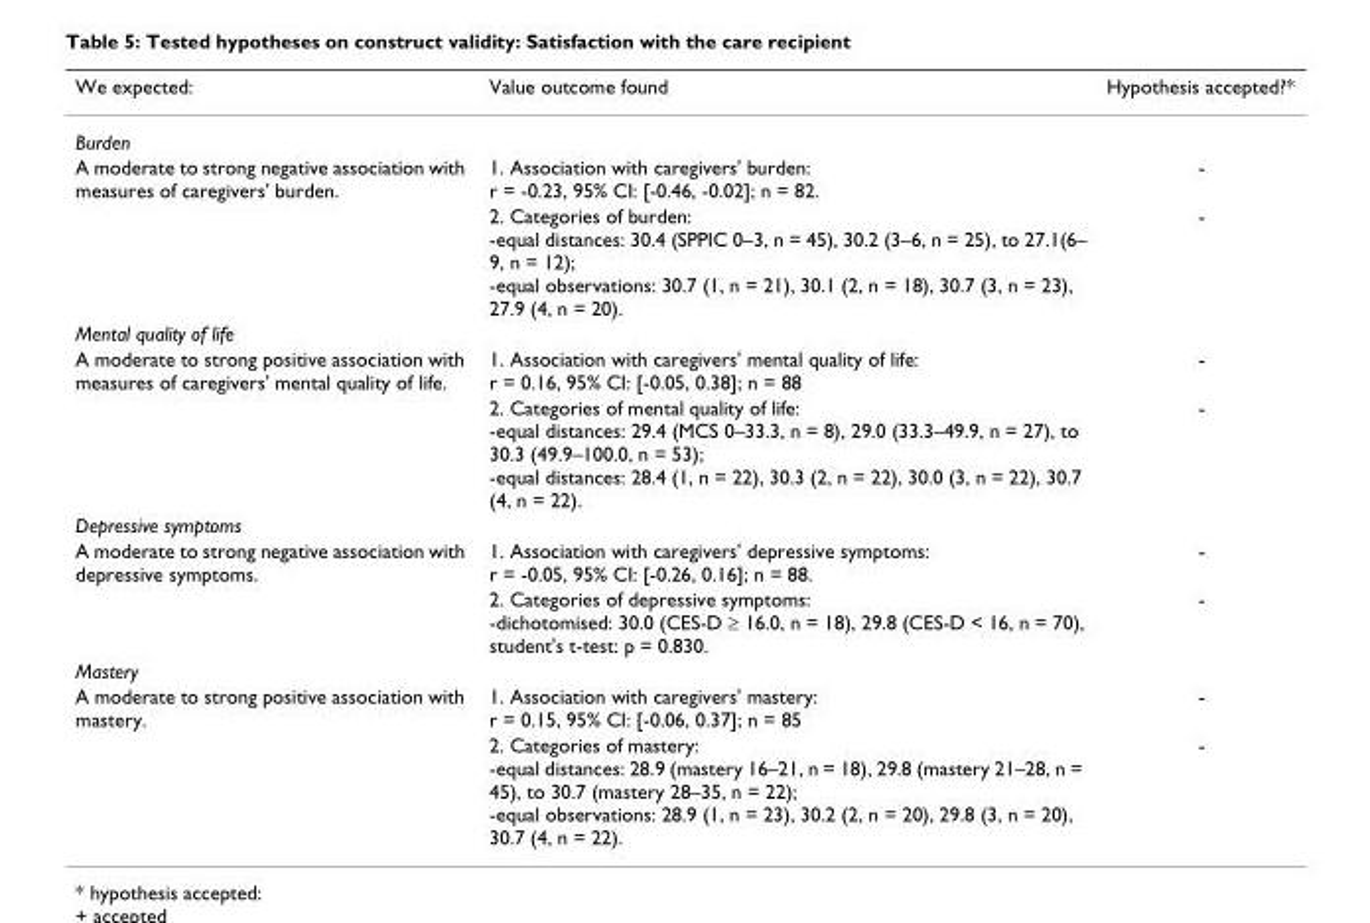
<table><thead><tr><td>We expected:</td><td>Value outcome found</td><td>Hypothesis accepted?*</td></tr></thead><tbody><tr><td colspan="3">Burden</td></tr><tr><td rowspan="2">A moderate to strong negative association with measures of caregivers&#x27; burden.</td><td>1. Association with caregivers&#x27; burden: r = -0.23, 95% CI: [-0.46, -0.02]; n = 82.</td><td>-</td></tr><tr><td>2. Categories of burden: -equal distances: 30.4 (SPPIC 0–3, n = 45), 30.2 (3–6, n = 25), to 27.1(6– 9, n = 12); -equal observations: 30.7 (1, n = 21), 30.1 (2, n = 18), 30.7 (3, n = 23), 27.9 (4, n = 20).</td><td>-</td></tr><tr><td colspan="3">Mental quality of life</td></tr><tr><td rowspan="2">A moderate to strong positive association with measures of caregivers&#x27; mental quality of life.</td><td>1. Association with caregivers&#x27; mental quality of life: r = 0.16, 95% CI: [-0.05, 0.38]; n = 88</td><td>-</td></tr><tr><td>2. Categories of mental quality of life: -equal distances: 29.4 (MCS 0–33.3, n = 8), 29.0 (33.3–49.9, n = 27), to 30.3 (49.9–100.0, n = 53); -equal distances: 28.4 (1, n = 22), 30.3 (2, n = 22), 30.0 (3, n = 22), 30.7 (4, n = 22).</td><td>-</td></tr><tr><td colspan="3">Depressive symptoms</td></tr><tr><td rowspan="2">A moderate to strong negative association with depressive symptoms.</td><td>1. Association with caregivers&#x27; depressive symptoms: r = -0.05, 95% CI: [-0.26, 0.16]; n = 88.</td><td>-</td></tr><tr><td>2. Categories of depressive symptoms: -dichotomised: 30.0 (CES-D ≥ 16.0, n = 18), 29.8 (CES-D &lt; 16, n = 70), student&#x27;s t-test: p = 0.830.</td><td>-</td></tr><tr><td colspan="3">Mastery</td></tr><tr><td rowspan="2">A moderate to strong positive association with mastery.</td><td>1. Association with caregivers&#x27; mastery: r = 0.15, 95% CI: [-0.06, 0.37]; n = 85</td><td>-</td></tr><tr><td>2. Categories of mastery: -equal distances: 28.9 (mastery 16–21, n = 18), 29.8 (mastery 21–28, n = 45), to 30.7 (mastery 28–35, n = 22); -equal observations: 28.9 (1, n = 23), 30.2 (2, n = 20), 29.8 (3, n = 20), 30.7 (4, n = 22).</td><td>-</td></tr></tbody></table>